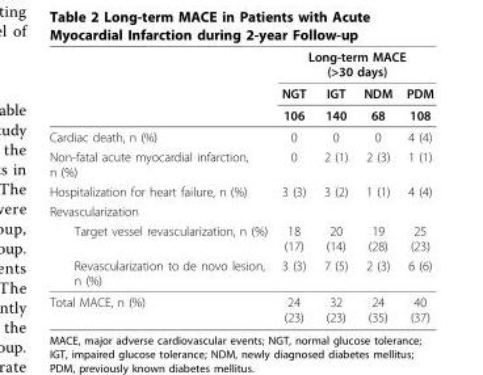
<table><thead><tr><td rowspan="3"></td><td colspan="4">Long-term MACE (&gt;30 days)</td></tr><tr><td rowspan="2">NGT 106</td><td rowspan="2">IGT 140</td><td rowspan="2">NDM 68</td><td rowspan="2">PDM 108</td></tr><tr></tr></thead><tbody><tr><td>Cardiac death, n (%)</td><td>0</td><td>0</td><td>0</td><td>4 (4)</td></tr><tr><td>Non-fatal acute myocardial infarction, n (%)</td><td>0</td><td>2 (1)</td><td>2 (3)</td><td>1 (1)</td></tr><tr><td>Hospitalization for heart failure, n (%)</td><td>3 (3)</td><td>3 (2)</td><td>1 (1)</td><td>4 (4)</td></tr><tr><td colspan="5">Revascularization</td></tr><tr><td>Target vessel revascularization, n (%)</td><td>18 (17)</td><td>20 (14)</td><td>19 (28)</td><td>25 (23)</td></tr><tr><td>Revascularization to de novo lesion, n (%)</td><td>3 (3)</td><td>7 (5)</td><td>2 (3)</td><td>6 (6)</td></tr><tr><td>Total MACE, n (%)</td><td>24 (23)</td><td>32 (23)</td><td>24 (35)</td><td>40 (37)</td></tr></tbody></table>